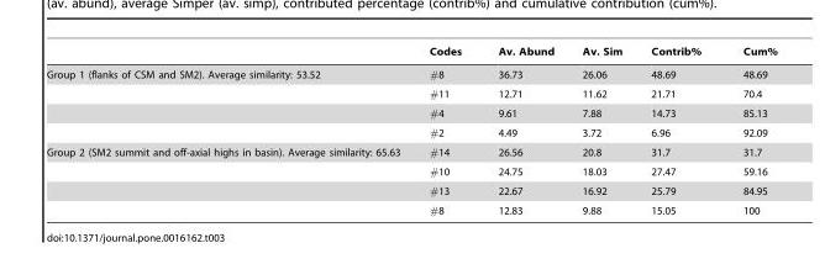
<table><thead><tr><td></td><td>Codes</td><td>Av. Abund</td><td>Av. Sim</td><td>Contrib%</td><td>Cum%</td></tr></thead><tbody><tr><td rowspan="4">Group 1 (flanks of CSM and SM2). Average similarity: 53.52</td><td>#8</td><td>36.73</td><td>26.06</td><td>48.69</td><td>48.69</td></tr><tr><td>#11</td><td>12.71</td><td>11.62</td><td>21.71</td><td>70.4</td></tr><tr><td>#4</td><td>9.61</td><td>7.88</td><td>14.73</td><td>85.13</td></tr><tr><td>#2</td><td>4.49</td><td>3.72</td><td>6.96</td><td>92.09</td></tr><tr><td rowspan="4">Group 2 (SM2 summit and off-axial highs in basin). Average similarity: 65.63</td><td>#14</td><td>26.56</td><td>20.8</td><td>31.7</td><td>31.7</td></tr><tr><td>#10</td><td>24.75</td><td>18.03</td><td>27.47</td><td>59.16</td></tr><tr><td>#13</td><td>22.67</td><td>16.92</td><td>25.79</td><td>84.95</td></tr><tr><td>#8</td><td>12.83</td><td>9.88</td><td>15.05</td><td>100</td></tr></tbody></table>